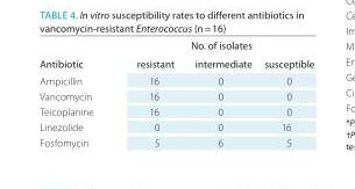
<table><thead><tr><td rowspan="2">Antibiotic</td><td colspan="3">No. of isolates</td></tr><tr><td>resistant</td><td>intermediate</td><td>susceptible</td></tr></thead><tbody><tr><td>Ampicillin</td><td>16</td><td>0</td><td>0</td></tr><tr><td>Vancomycin</td><td>16</td><td>0</td><td>0</td></tr><tr><td>Teicoplanine</td><td>16</td><td>0</td><td>0</td></tr><tr><td>Linezolide</td><td>0</td><td>0</td><td>16</td></tr><tr><td>Fosfomycin</td><td>5</td><td>6</td><td>5</td></tr></tbody></table>